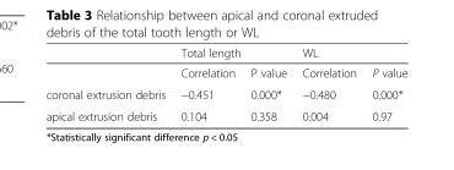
<table><thead><tr><td rowspan="2"></td><td colspan="2">Total length</td><td colspan="2">WL</td></tr><tr><td>Correlation</td><td>P value</td><td>Correlation</td><td>P value</td></tr></thead><tbody><tr><td>coronal extrusion debris</td><td>−0.451</td><td>0.000*</td><td>−0.480</td><td>0.000*</td></tr><tr><td>apical extrusion debris</td><td>0.104</td><td>0.358</td><td>0.004</td><td>0.97</td></tr></tbody></table>